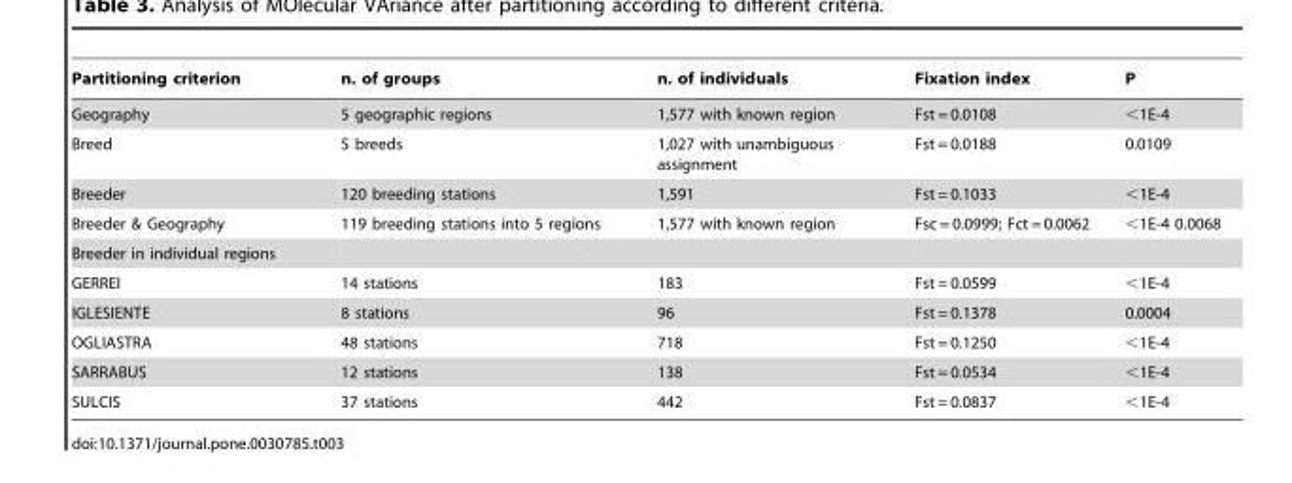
<table><thead><tr><td>Partitioning criterion</td><td>n. of groups</td><td>n. of individuals</td><td>Fixation index</td><td>P</td></tr></thead><tbody><tr><td>Geography</td><td>5 geographic regions</td><td>1,577 with known region</td><td>Fst = 0.0108</td><td>&lt;1E-4</td></tr><tr><td>Breed</td><td>5 breeds</td><td>1,027 with unambiguous assignment</td><td>Fst = 0.0188</td><td>0.0109</td></tr><tr><td>Breeder</td><td>120 breeding stations</td><td>1,591</td><td>Fst = 0.1033</td><td>&lt;1E-4</td></tr><tr><td>Breeder &amp; Geography</td><td>119 breeding stations into 5 regions</td><td>1,577 with known region</td><td>Fsc = 0.0999; Fct = 0.0062</td><td>&lt;1E-4 0.0068</td></tr><tr><td colspan="5">Breeder in individual regions</td></tr><tr><td>GERREI</td><td>14 stations</td><td>183</td><td>Fst = 0.0599</td><td>&lt;1E-4</td></tr><tr><td>IGLESIENTE</td><td>8 stations</td><td>96</td><td>Fst = 0.1378</td><td>0.0004</td></tr><tr><td>OGLIASTRA</td><td>48 stations</td><td>718</td><td>Fst = 0.1250</td><td>&lt;1E-4</td></tr><tr><td>SARRABUS</td><td>12 stations</td><td>138</td><td>Fst = 0.0534</td><td>&lt;1E-4</td></tr><tr><td>SULCIS</td><td>37 stations</td><td>442</td><td>Fst = 0.0837</td><td>&lt;1E-4</td></tr></tbody></table>